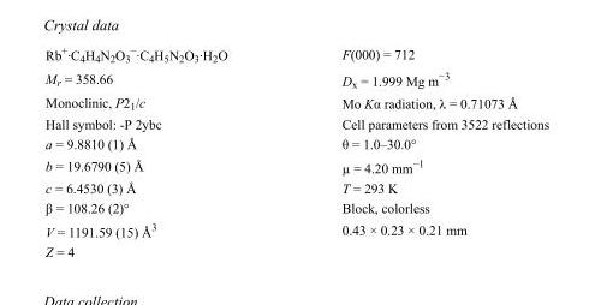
<table><tbody><tr><td>Rb<sup>+</sup>·C<sub>4</sub>H<sub>4</sub>N<sub>2</sub>O<sub>3</sub> <sup>−</sup>·C<sub>4</sub>H<sub>5</sub>N<sub>2</sub>O<sub>3</sub>·H<sub>2</sub>O</td><td>F(000) = 712</td></tr><tr><td>M<sub>r</sub> = 358.66</td><td>D<sub>x</sub> = 1.999 Mg m<sup>−3</sup></td></tr><tr><td>Monoclinic, P2<sub>1</sub>/c</td><td>Mo Kα radiation, λ = 0.71073 Å</td></tr><tr><td>Hall symbol: -P 2ybc</td><td>Cell parameters from 3522 reflections</td></tr><tr><td>a = 9.8810 (1) Å</td><td>θ = 1.0–30.0°</td></tr><tr><td>b = 19.6790 (5) Å</td><td>µ = 4.20 mm<sup>−1</sup></td></tr><tr><td>c = 6.4530 (3) Å</td><td>T = 293 K</td></tr><tr><td>β = 108.26 (2)°</td><td>Block, colorless</td></tr><tr><td>V = 1191.59 (15) Å<sup>3</sup></td><td>0.43 × 0.23 × 0.21 mm</td></tr><tr><td>Z = 4</td><td></td></tr></tbody></table>